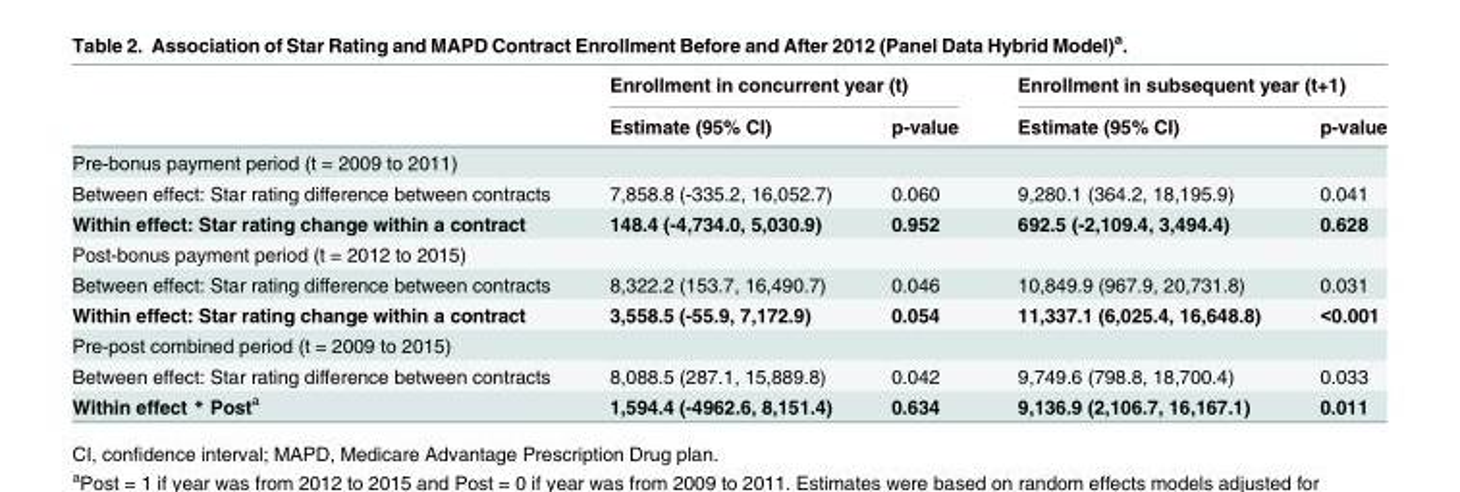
<table><thead><tr><td rowspan="2"></td><td colspan="2">Enrollment in concurrent year (t)</td><td colspan="2">Enrollment in subsequent year (t+1)</td></tr><tr><td>Estimate (95% CI)</td><td>p-value</td><td>Estimate (95% CI)</td><td>p-value</td></tr></thead><tbody><tr><td colspan="5">Pre-bonus payment period (t = 2009 to 2011)</td></tr><tr><td>Between effect: Star rating difference between contracts</td><td>7,858.8 (-335.2, 16,052.7)</td><td>0.060</td><td>9,280.1 (364.2, 18,195.9)</td><td>0.041</td></tr><tr><td>Within effect: Star rating change within a contract</td><td>148.4 (-4,734.0, 5,030.9)</td><td>0.952</td><td>692.5 (-2,109.4, 3,494.4)</td><td>0.628</td></tr><tr><td colspan="5">Post-bonus payment period (t = 2012 to 2015)</td></tr><tr><td>Between effect: Star rating difference between contracts</td><td>8,322.2 (153.7, 16,490.7)</td><td>0.046</td><td>10,849.9 (967.9, 20,731.8)</td><td>0.031</td></tr><tr><td>Within effect: Star rating change within a contract</td><td>3,558.5 (-55.9, 7,172.9)</td><td>0.054</td><td>11,337.1 (6,025.4, 16,648.8)</td><td>&lt;0.001</td></tr><tr><td colspan="5">Pre-post combined period (t = 2009 to 2015)</td></tr><tr><td>Between effect: Star rating difference between contracts</td><td>8,088.5 (287.1, 15,889.8)</td><td>0.042</td><td>9,749.6 (798.8, 18,700.4)</td><td>0.033</td></tr><tr><td>Within effect * Post<sup>a</sup></td><td>1,594.4 (-4962.6, 8,151.4)</td><td>0.634</td><td>9,136.9 (2,106.7, 16,167.1)</td><td>0.011</td></tr></tbody></table>